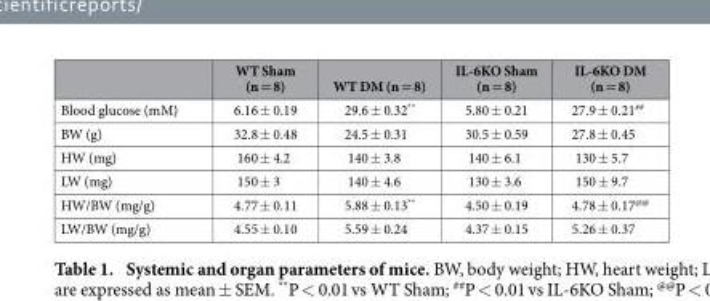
<table><thead><tr><td></td><td>WT Sham (n = 8)</td><td>WT DM (n = 8)</td><td>IL-6KO Sham (n = 8)</td><td>IL-6KO DM (n = 8)</td></tr></thead><tbody><tr><td>Blood glucose (mM)</td><td>6.16 ± 0.19</td><td>29.6 ± 0.32**</td><td>5.80 ± 0.21</td><td>27.9 ± 0.21<sup>##</sup></td></tr><tr><td>BW (g)</td><td>32.8 ± 0.48</td><td>24.5 ± 0.31</td><td>30.5 ± 0.59</td><td>27.8 ± 0.45</td></tr><tr><td>HW (mg)</td><td>160 ± 4.2</td><td>140 ± 3.8</td><td>140 ± 6.1</td><td>130 ± 5.7</td></tr><tr><td>LW (mg)</td><td>150 ± 3</td><td>140 ± 4.6</td><td>130 ± 3.6</td><td>150 ± 9.7</td></tr><tr><td>HW/BW (mg/g)</td><td>4.77 ± 0.11</td><td>5.88 ± 0.13**</td><td>4.50 ± 0.19</td><td>4.78 ± 0.17<sup>@@</sup></td></tr><tr><td>LW/BW (mg/g)</td><td>4.55 ± 0.10</td><td>5.59 ± 0.24</td><td>4.37 ± 0.15</td><td>5.26 ± 0.37</td></tr></tbody></table>